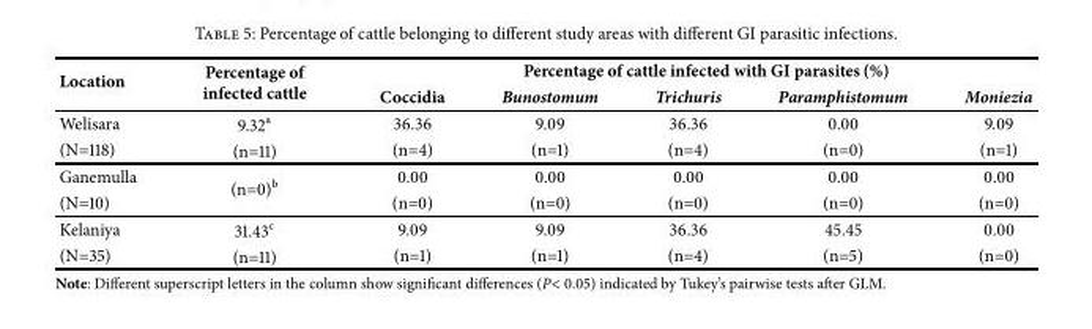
<table><thead><tr><td rowspan="2">Location</td><td rowspan="2">Percentage of infected cattle</td><td colspan="5">Percentage of cattle infected with GI parasites (%)</td></tr><tr><td>Coccidia</td><td>Bunostomum</td><td>Trichuris</td><td>Paramphistomum</td><td>Moniezia</td></tr></thead><tbody><tr><td>Welisara</td><td>9.32<sup>a</sup></td><td>36.36</td><td>9.09</td><td>36.36</td><td>0.00</td><td>9.09</td></tr><tr><td>(N=118)</td><td>(n=11)</td><td>(n=4)</td><td>(n=1)</td><td>(n=4)</td><td>(n=0)</td><td>(n=1)</td></tr><tr><td>Ganemulla</td><td rowspan="2">(n=0)<sup>b</sup></td><td>0.00</td><td>0.00</td><td>0.00</td><td>0.00</td><td>0.00</td></tr><tr><td>(N=10)</td><td>(n=0)</td><td>(n=0)</td><td>(n=0)</td><td>(n=0)</td><td>(n=0)</td></tr><tr><td>Kelaniya</td><td>31.43<sup>c</sup></td><td>9.09</td><td>9.09</td><td>36.36</td><td>45.45</td><td>0.00</td></tr><tr><td>(N=35)</td><td>(n=11)</td><td>(n=1)</td><td>(n=1)</td><td>(n=4)</td><td>(n=5)</td><td>(n=0)</td></tr></tbody></table>